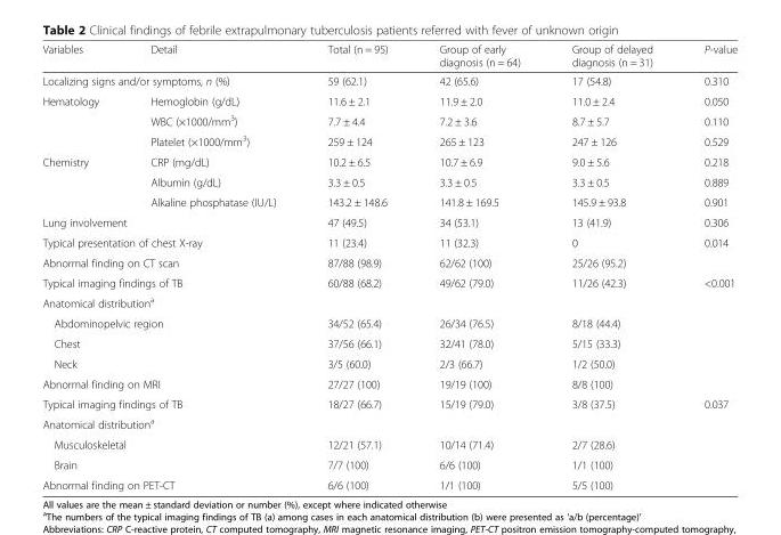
<table><thead><tr><td>Variables</td><td>Detail</td><td>Total (n = 95)</td><td>Group of early diagnosis (n = 64)</td><td>Group of delayed diagnosis (n = 31)</td><td>P-value</td></tr></thead><tbody><tr><td colspan="2">Localizing signs and/or symptoms, n (%)</td><td>59 (62.1)</td><td>42 (65.6)</td><td>17 (54.8)</td><td>0.310</td></tr><tr><td rowspan="3">Hematology</td><td>Hemoglobin (g/dL)</td><td>11.6 ± 2.1</td><td>11.9 ± 2.0</td><td>11.0 ± 2.4</td><td>0.050</td></tr><tr><td>WBC (×1000/mm<sup>3</sup>)</td><td>7.7 ± 4.4</td><td>7.2 ± 3.6</td><td>8.7 ± 5.7</td><td>0.110</td></tr><tr><td>Platelet (×1000/mm<sup>3</sup>)</td><td>259 ± 124</td><td>265 ± 123</td><td>247 ± 126</td><td>0.529</td></tr><tr><td rowspan="3">Chemistry</td><td>CRP (mg/dL)</td><td>10.2 ± 6.5</td><td>10.7 ± 6.9</td><td>9.0 ± 5.6</td><td>0.218</td></tr><tr><td>Albumin (g/dL)</td><td>3.3 ± 0.5</td><td>3.3 ± 0.5</td><td>3.3 ± 0.5</td><td>0.889</td></tr><tr><td>Alkaline phosphatase (IU/L)</td><td>143.2 ± 148.6</td><td>141.8 ± 169.5</td><td>145.9 ± 93.8</td><td>0.901</td></tr><tr><td colspan="2">Lung involvement</td><td>47 (49.5)</td><td>34 (53.1)</td><td>13 (41.9)</td><td>0.306</td></tr><tr><td colspan="2">Typical presentation of chest X-ray</td><td>11 (23.4)</td><td>11 (32.3)</td><td>0</td><td>0.014</td></tr><tr><td colspan="2">Abnormal finding on CT scan</td><td>87/88 (98.9)</td><td>62/62 (100)</td><td>25/26 (95.2)</td><td></td></tr><tr><td colspan="2">Typical imaging findings of TB</td><td>60/88 (68.2)</td><td>49/62 (79.0)</td><td>11/26 (42.3)</td><td>&lt;0.001</td></tr><tr><td colspan="6">Anatomical distribution<sup>a</sup></td></tr><tr><td colspan="2">Abdominopelvic region</td><td>34/52 (65.4)</td><td>26/34 (76.5)</td><td>8/18 (44.4)</td><td></td></tr><tr><td colspan="2">Chest</td><td>37/56 (66.1)</td><td>32/41 (78.0)</td><td>5/15 (33.3)</td><td></td></tr><tr><td colspan="2">Neck</td><td>3/5 (60.0)</td><td>2/3 (66.7)</td><td>1/2 (50.0)</td><td></td></tr><tr><td colspan="2">Abnormal finding on MRI</td><td>27/27 (100)</td><td>19/19 (100)</td><td>8/8 (100)</td><td></td></tr><tr><td colspan="2">Typical imaging findings of TB</td><td>18/27 (66.7)</td><td>15/19 (79.0)</td><td>3/8 (37.5)</td><td>0.037</td></tr><tr><td colspan="6">Anatomical distribution<sup>a</sup></td></tr><tr><td colspan="2">Musculoskeletal</td><td>12/21 (57.1)</td><td>10/14 (71.4)</td><td>2/7 (28.6)</td><td></td></tr><tr><td colspan="2">Brain</td><td>7/7 (100)</td><td>6/6 (100)</td><td>1/1 (100)</td><td></td></tr><tr><td colspan="2">Abnormal finding on PET-CT</td><td>6/6 (100)</td><td>1/1 (100)</td><td>5/5 (100)</td><td></td></tr></tbody></table>